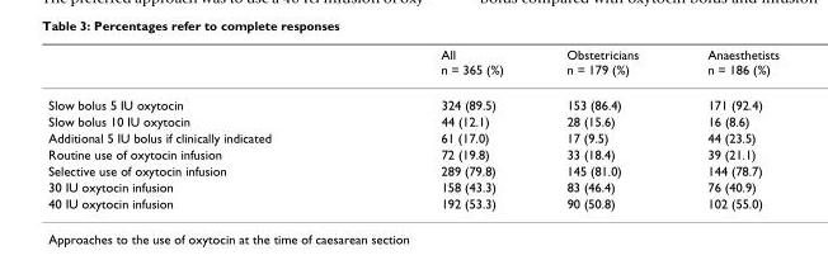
<table><thead><tr><td></td><td>All n = 365 (%)</td><td>Obstetricians n = 179 (%)</td><td>Anaesthetists n = 186 (%)</td></tr></thead><tbody><tr><td>Slow bolus 5 IU oxytocin</td><td>324 (89.5)</td><td>153 (86.4)</td><td>171 (92.4)</td></tr><tr><td>Slow bolus 10 IU oxytocin</td><td>44 (12.1)</td><td>28 (15.6)</td><td>16 (8.6)</td></tr><tr><td>Additional 5 IU bolus if clinically indicated</td><td>61 (17.0)</td><td>17 (9.5)</td><td>44 (23.5)</td></tr><tr><td>Routine use of oxytocin infusion</td><td>72 (19.8)</td><td>33 (18.4)</td><td>39 (21.1)</td></tr><tr><td>Selective use of oxytocin infusion</td><td>289 (79.8)</td><td>145 (81.0)</td><td>144 (78.7)</td></tr><tr><td>30 IU oxytocin infusion</td><td>158 (43.3)</td><td>83 (46.4)</td><td>76 (40.9)</td></tr><tr><td>40 IU oxytocin infusion</td><td>192 (53.3)</td><td>90 (50.8)</td><td>102 (55.0)</td></tr></tbody></table>